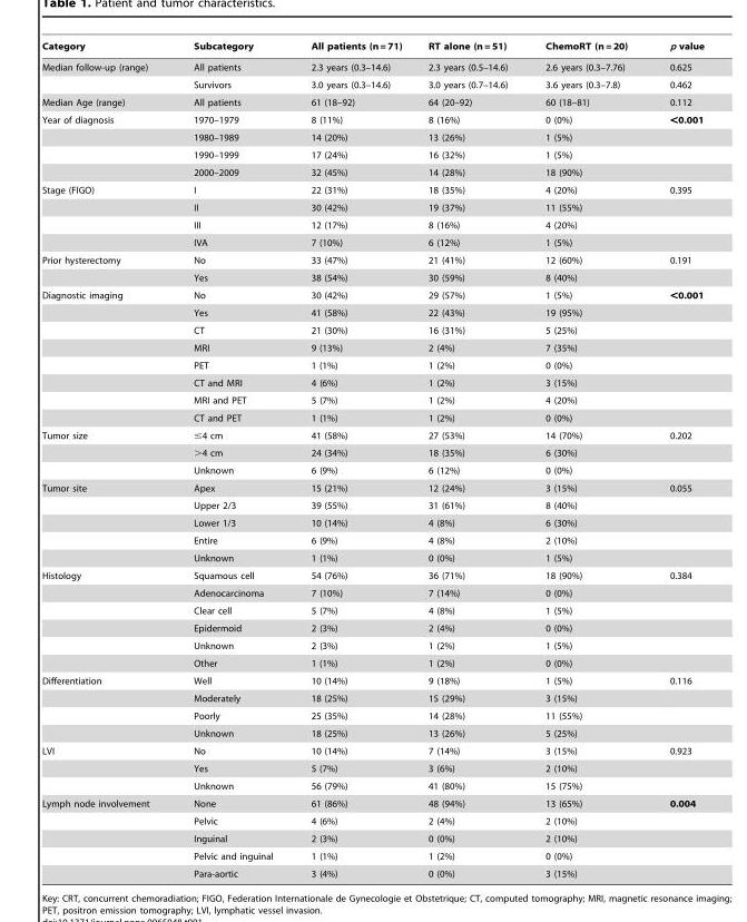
<table><thead><tr><td>Category</td><td>Subcategory</td><td>All patients (n = 71)</td><td>RT alone (n = 51)</td><td>ChemoRT (n = 20)</td><td>p value</td></tr></thead><tbody><tr><td rowspan="2">Median follow-up (range)</td><td>All patients</td><td>2.3 years (0.3–14.6)</td><td>2.3 years (0.5–14.6)</td><td>2.6 years (0.3–7.76)</td><td>0.625</td></tr><tr><td>Survivors</td><td>3.0 years (0.3–14.6)</td><td>3.0 years (0.7–14.6)</td><td>3.6 years (0.3–7.8)</td><td>0.462</td></tr><tr><td>Median Age (range)</td><td>All patients</td><td>61 (18–92)</td><td>64 (20–92)</td><td>60 (18–81)</td><td>0.112</td></tr><tr><td rowspan="4">Year of diagnosis</td><td>1970–1979</td><td>8 (11%)</td><td>8 (16%)</td><td>0 (0%)</td><td>&lt;0.001</td></tr><tr><td>1980–1989</td><td>14 (20%)</td><td>13 (26%)</td><td>1 (5%)</td><td></td></tr><tr><td>1990–1999</td><td>17 (24%)</td><td>16 (32%)</td><td>1 (5%)</td><td></td></tr><tr><td>2000–2009</td><td>32 (45%)</td><td>14 (28%)</td><td>18 (90%)</td><td></td></tr><tr><td rowspan="4">Stage (FIGO)</td><td>I</td><td>22 (31%)</td><td>18 (35%)</td><td>4 (20%)</td><td>0.395</td></tr><tr><td>II</td><td>30 (42%)</td><td>19 (37%)</td><td>11 (55%)</td><td></td></tr><tr><td>III</td><td>12 (17%)</td><td>8 (16%)</td><td>4 (20%)</td><td></td></tr><tr><td>IVA</td><td>7 (10%)</td><td>6 (12%)</td><td>1 (5%)</td><td></td></tr><tr><td rowspan="2">Prior hysterectomy</td><td>No</td><td>33 (47%)</td><td>21 (41%)</td><td>12 (60%)</td><td>0.191</td></tr><tr><td>Yes</td><td>38 (54%)</td><td>30 (59%)</td><td>8 (40%)</td><td></td></tr><tr><td rowspan="8">Diagnostic imaging</td><td>No</td><td>30 (42%)</td><td>29 (57%)</td><td>1 (5%)</td><td>&lt;0.001</td></tr><tr><td>Yes</td><td>41 (58%)</td><td>22 (43%)</td><td>19 (95%)</td><td></td></tr><tr><td>CT</td><td>21 (30%)</td><td>16 (31%)</td><td>5 (25%)</td><td></td></tr><tr><td>MRI</td><td>9 (13%)</td><td>2 (4%)</td><td>7 (35%)</td><td></td></tr><tr><td>PET</td><td>1 (1%)</td><td>1 (2%)</td><td>0 (0%)</td><td></td></tr><tr><td>CT and MRI</td><td>4 (6%)</td><td>1 (2%)</td><td>3 (15%)</td><td></td></tr><tr><td>MRI and PET</td><td>5 (7%)</td><td>1 (2%)</td><td>4 (20%)</td><td></td></tr><tr><td>CT and PET</td><td>1 (1%)</td><td>1 (2%)</td><td>0 (0%)</td><td></td></tr><tr><td rowspan="3">Tumor size</td><td>≤4 cm</td><td>41 (58%)</td><td>27 (53%)</td><td>14 (70%)</td><td>0.202</td></tr><tr><td>&gt;4 cm</td><td>24 (34%)</td><td>18 (35%)</td><td>6 (30%)</td><td></td></tr><tr><td>Unknown</td><td>6 (9%)</td><td>6 (12%)</td><td>0 (0%)</td><td></td></tr><tr><td rowspan="5">Tumor site</td><td>Apex</td><td>15 (21%)</td><td>12 (24%)</td><td>3 (15%)</td><td>0.055</td></tr><tr><td>Upper 2/3</td><td>39 (55%)</td><td>31 (61%)</td><td>8 (40%)</td><td></td></tr><tr><td>Lower 1/3</td><td>10 (14%)</td><td>4 (8%)</td><td>6 (30%)</td><td></td></tr><tr><td>Entire</td><td>6 (9%)</td><td>4 (8%)</td><td>2 (10%)</td><td></td></tr><tr><td>Unknown</td><td>1 (1%)</td><td>0 (0%)</td><td>1 (5%)</td><td></td></tr><tr><td rowspan="6">Histology</td><td>Squamous cell</td><td>54 (76%)</td><td>36 (71%)</td><td>18 (90%)</td><td>0.384</td></tr><tr><td>Adenocarcinoma</td><td>7 (10%)</td><td>7 (14%)</td><td>0 (0%)</td><td></td></tr><tr><td>Clear cell</td><td>5 (7%)</td><td>4 (8%)</td><td>1 (5%)</td><td></td></tr><tr><td>Epidermoid</td><td>2 (3%)</td><td>2 (4%)</td><td>0 (0%)</td><td></td></tr><tr><td>Unknown</td><td>2 (3%)</td><td>1 (2%)</td><td>1 (5%)</td><td></td></tr><tr><td>Other</td><td>1 (1%)</td><td>1 (2%)</td><td>0 (0%)</td><td></td></tr><tr><td rowspan="4">Differentiation</td><td>Well</td><td>10 (14%)</td><td>9 (18%)</td><td>1 (5%)</td><td>0.116</td></tr><tr><td>Moderately</td><td>18 (25%)</td><td>15 (29%)</td><td>3 (15%)</td><td></td></tr><tr><td>Poorly</td><td>25 (35%)</td><td>14 (28%)</td><td>11 (55%)</td><td></td></tr><tr><td>Unknown</td><td>18 (25%)</td><td>13 (26%)</td><td>5 (25%)</td><td></td></tr><tr><td rowspan="3">LVI</td><td>No</td><td>10 (14%)</td><td>7 (14%)</td><td>3 (15%)</td><td>0.923</td></tr><tr><td>Yes</td><td>5 (7%)</td><td>3 (6%)</td><td>2 (10%)</td><td></td></tr><tr><td>Unknown</td><td>56 (79%)</td><td>41 (80%)</td><td>15 (75%)</td><td></td></tr><tr><td rowspan="5">Lymph node involvement</td><td>None</td><td>61 (86%)</td><td>48 (94%)</td><td>13 (65%)</td><td>0.004</td></tr><tr><td>Pelvic</td><td>4 (6%)</td><td>2 (4%)</td><td>2 (10%)</td><td></td></tr><tr><td>Inguinal</td><td>2 (3%)</td><td>0 (0%)</td><td>2 (10%)</td><td></td></tr><tr><td>Pelvic and inguinal</td><td>1 (1%)</td><td>1 (2%)</td><td>0 (0%)</td><td></td></tr><tr><td>Para-aortic</td><td>3 (4%)</td><td>0 (0%)</td><td>3 (15%)</td><td></td></tr></tbody></table>